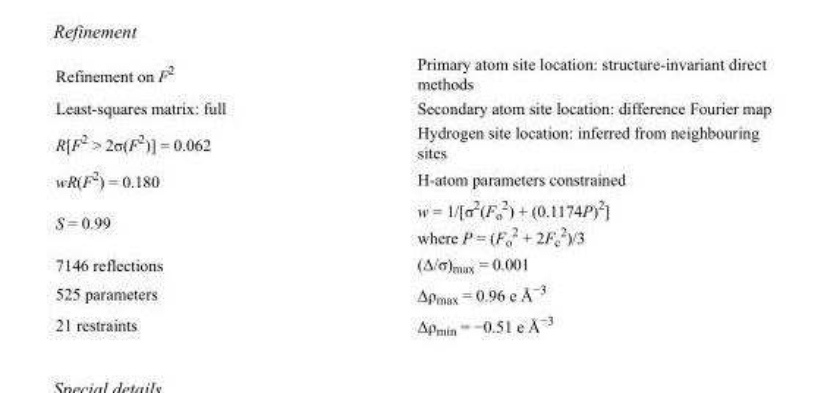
<table><tbody><tr><td>Refinement on F<sup>2</sup></td><td>Primary atom site location: structure-invariant direct methods</td></tr><tr><td>Least-squares matrix: full</td><td>Secondary atom site location: difference Fourier map</td></tr><tr><td>R[F<sup>2</sup> &gt; 2σ(F<sup>2</sup>)] = 0.062</td><td>Hydrogen site location: inferred from neighbouring sites</td></tr><tr><td>wR(F<sup>2</sup>) = 0.180</td><td>H-atom parameters constrained</td></tr><tr><td>S = 0.99</td><td>w = 1/[σ<sup>2</sup>(F<sub>o</sub> <sup>2</sup>) + (0.1174P)<sup>2</sup>] where P = (F<sub>o</sub> <sup>2</sup> + 2F<sub>c</sub> <sup>2</sup>)/3</td></tr><tr><td>7146 reflections</td><td>(Δ/σ)<sub>max</sub> = 0.001</td></tr><tr><td>525 parameters</td><td>Δρ<sub>max</sub> = 0.96 e Å<sup>−3</sup></td></tr><tr><td>21 restraints</td><td>Δρ<sub>min</sub> = −0.51 e Å<sup>−3</sup></td></tr></tbody></table>